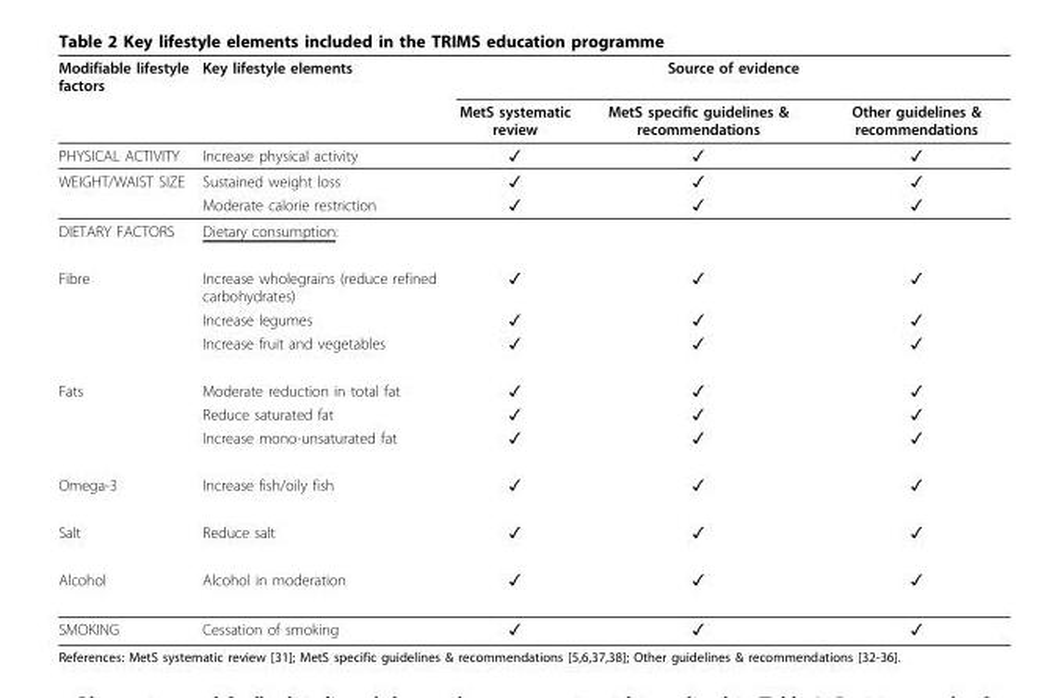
<table><thead><tr><td rowspan="2">Modifiable lifestyle factors</td><td rowspan="2">Key lifestyle elements</td><td colspan="3">Source of evidence</td></tr><tr><td>MetS systematic review</td><td>MetS specific guidelines &amp; recommendations</td><td>Other guidelines &amp; recommendations</td></tr></thead><tbody><tr><td>PHYSICAL ACTIVITY</td><td>Increase physical activity</td><td>✓</td><td>✓</td><td>✓</td></tr><tr><td rowspan="2">WEIGHT/WAIST SIZE</td><td>Sustained weight loss</td><td>✓</td><td>✓</td><td>✓</td></tr><tr><td>Moderate calorie restriction</td><td>✓</td><td>✓</td><td>✓</td></tr><tr><td>DIETARY FACTORS</td><td>Dietary consumption:</td><td></td><td></td><td></td></tr><tr><td rowspan="3">Fibre</td><td>Increase wholegrains (reduce refined carbohydrates)</td><td>✓</td><td>✓</td><td>✓</td></tr><tr><td>Increase legumes</td><td>✓</td><td>✓</td><td>✓</td></tr><tr><td>Increase fruit and vegetables</td><td>✓</td><td>✓</td><td>✓</td></tr><tr><td rowspan="3">Fats</td><td>Moderate reduction in total fat</td><td>✓</td><td>✓</td><td>✓</td></tr><tr><td>Reduce saturated fat</td><td>✓</td><td>✓</td><td>✓</td></tr><tr><td>Increase mono-unsaturated fat</td><td>✓</td><td>✓</td><td>✓</td></tr><tr><td>Omega-3</td><td>Increase fish/oily fish</td><td>✓</td><td>✓</td><td>✓</td></tr><tr><td>Salt</td><td>Reduce salt</td><td>✓</td><td>✓</td><td>✓</td></tr><tr><td>Alcohol</td><td>Alcohol in moderation</td><td>✓</td><td>✓</td><td>✓</td></tr><tr><td>SMOKING</td><td>Cessation of smoking</td><td>✓</td><td>✓</td><td>✓</td></tr></tbody></table>